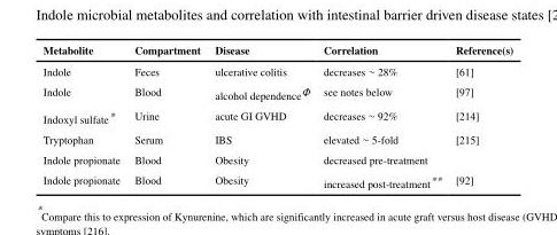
<table><thead><tr><td>Metabolite</td><td>Compartment</td><td>Disease</td><td>Correlation</td><td>Reference(s)</td></tr></thead><tbody><tr><td>Indole</td><td>Feces</td><td>ulcerative colitis</td><td>decreases ∼ 28%</td><td>[61]</td></tr><tr><td>Indole</td><td>Blood</td><td>alcohol dependenceΦ</td><td>see notes below</td><td>[97]</td></tr><tr><td>Indoxyl sulfate*</td><td>Urine</td><td>acute GI GVHD</td><td>decreases ∼ 92%</td><td>[214]</td></tr><tr><td>Tryptophan</td><td>Serum</td><td>IBS</td><td>elevated ∼ 5-fold</td><td>[215]</td></tr><tr><td>Indole propionate</td><td>Blood</td><td>Obesity</td><td>decreased pre-treatment</td><td></td></tr><tr><td>Indole propionate</td><td>Blood</td><td>Obesity</td><td>increased post-treatment**</td><td>[92]</td></tr></tbody></table>